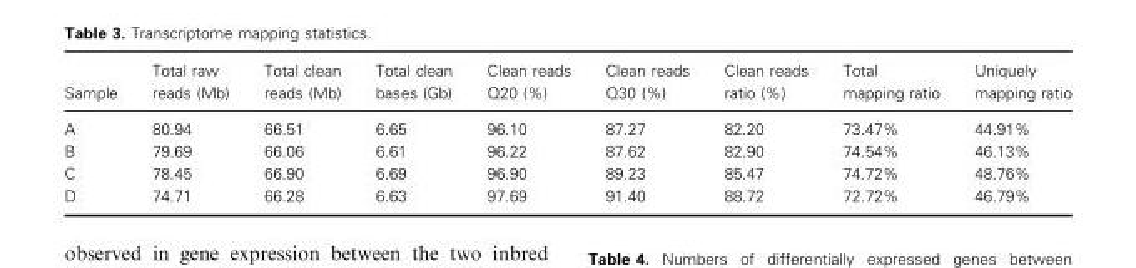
<table><thead><tr><td>Sample</td><td>Total raw reads (Mb)</td><td>Total clean reads (Mb)</td><td>Total clean bases (Gb)</td><td>Clean reads Q20 (%)</td><td>Clean reads Q30 (%)</td><td>Clean reads ratio (%)</td><td>Total mapping ratio</td><td>Uniquely mapping ratio</td></tr></thead><tbody><tr><td>A</td><td>80.94</td><td>66.51</td><td>6.65</td><td>96.10</td><td>87.27</td><td>82.20</td><td>73.47%</td><td>44.91%</td></tr><tr><td>B</td><td>79.69</td><td>66.06</td><td>6.61</td><td>96.22</td><td>87.62</td><td>82.90</td><td>74.54%</td><td>46.13%</td></tr><tr><td>C</td><td>78.45</td><td>66.90</td><td>6.69</td><td>96.90</td><td>89.23</td><td>85.47</td><td>74.72%</td><td>48.76%</td></tr><tr><td>D</td><td>74.71</td><td>66.28</td><td>6.63</td><td>97.69</td><td>91.40</td><td>88.72</td><td>72.72%</td><td>46.79%</td></tr></tbody></table>